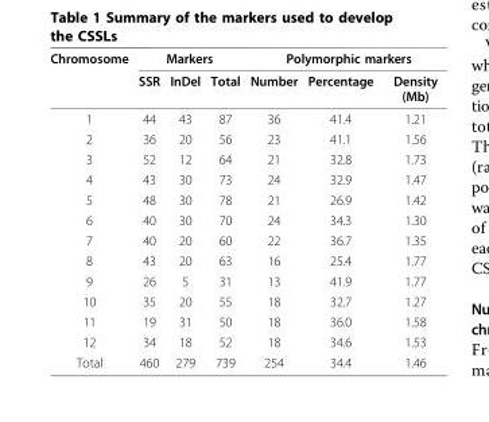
<table><thead><tr><td rowspan="2">Chromosome</td><td colspan="3">Markers</td><td colspan="3">Polymorphic markers</td></tr><tr><td>SSR</td><td>InDel</td><td>Total</td><td>Number</td><td>Percentage</td><td>Density (Mb)</td></tr></thead><tbody><tr><td>1</td><td>44</td><td>43</td><td>87</td><td>36</td><td>41.4</td><td>1.21</td></tr><tr><td>2</td><td>36</td><td>20</td><td>56</td><td>23</td><td>41.1</td><td>1.56</td></tr><tr><td>3</td><td>52</td><td>12</td><td>64</td><td>21</td><td>32.8</td><td>1.73</td></tr><tr><td>4</td><td>43</td><td>30</td><td>73</td><td>24</td><td>32.9</td><td>1.47</td></tr><tr><td>5</td><td>48</td><td>30</td><td>78</td><td>21</td><td>26.9</td><td>1.42</td></tr><tr><td>6</td><td>40</td><td>30</td><td>70</td><td>24</td><td>34.3</td><td>1.30</td></tr><tr><td>7</td><td>40</td><td>20</td><td>60</td><td>22</td><td>36.7</td><td>1.35</td></tr><tr><td>8</td><td>43</td><td>20</td><td>63</td><td>16</td><td>25.4</td><td>1.77</td></tr><tr><td>9</td><td>26</td><td>5</td><td>31</td><td>13</td><td>41.9</td><td>1.77</td></tr><tr><td>10</td><td>35</td><td>20</td><td>55</td><td>18</td><td>32.7</td><td>1.27</td></tr><tr><td>11</td><td>19</td><td>31</td><td>50</td><td>18</td><td>36.0</td><td>1.58</td></tr><tr><td>12</td><td>34</td><td>18</td><td>52</td><td>18</td><td>34.6</td><td>1.53</td></tr><tr><td>Total</td><td>460</td><td>279</td><td>739</td><td>254</td><td>34.4</td><td>1.46</td></tr></tbody></table>